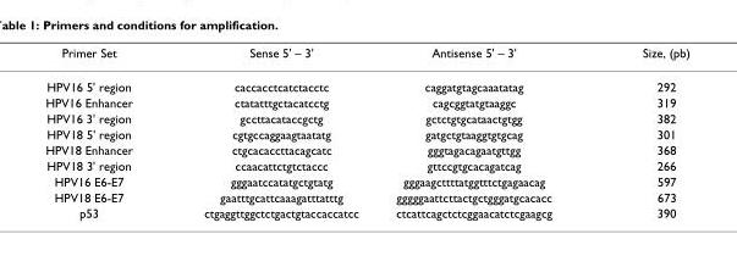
<table><thead><tr><td>Primer Set</td><td>Sense 5&#x27; – 3&#x27;</td><td>Antisense 5&#x27; – 3&#x27;</td><td>Size, (pb)</td></tr></thead><tbody><tr><td>HPV16 5&#x27; region</td><td>caccacctcatctacctc</td><td>caggatgtagcaaatatag</td><td>292</td></tr><tr><td>HPV16 Enhancer</td><td>ctatatttgctacatcctg</td><td>cagcggtatgtaaggc</td><td>319</td></tr><tr><td>HPV16 3&#x27; region</td><td>gccttacataccgctg</td><td>gctctgtgcataactgtgg</td><td>382</td></tr><tr><td>HPV18 5&#x27; region</td><td>cgtgccaggaagtaatatg</td><td>gatgctgtaaggtgtgcag</td><td>301</td></tr><tr><td>HPV18 Enhancer</td><td>ctgcacaccttacagcatc</td><td>gggtagacagaatgttgg</td><td>368</td></tr><tr><td>HPV18 3&#x27; region</td><td>ccaacattctgtctaccc</td><td>gttccgtgcacagatcag</td><td>266</td></tr><tr><td>HPV16 E6-E7</td><td>gggaatccatatgctgtatg</td><td>gggaagcttttatggtttctgagaacag</td><td>597</td></tr><tr><td>HPV18 E6-E7</td><td>gaatttgcattcaaagatttatttg</td><td>gggggaattcttactgctgggatgcacacc</td><td>673</td></tr><tr><td>p53</td><td>ctgaggttggctctgactgtaccaccatcc</td><td>ctcattcagctctcggaacatctcgaagcg</td><td>390</td></tr></tbody></table>